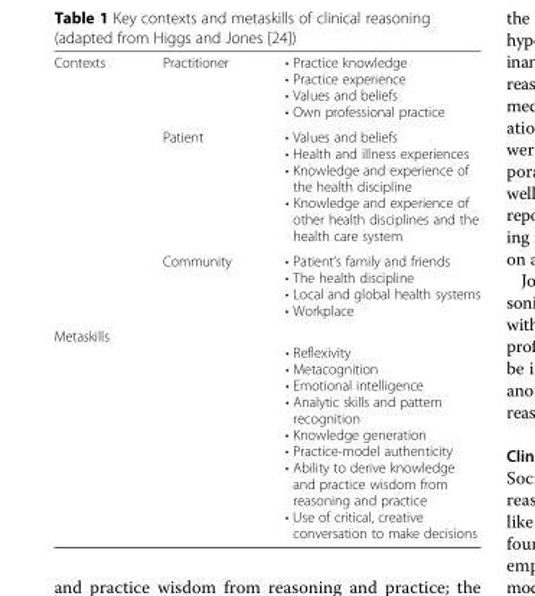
<table><tbody><tr><td rowspan="3">Contexts</td><td>Practitioner</td><td>• Practice knowledge • Practice experience • Values and beliefs • Own professional practice</td></tr><tr><td>Patient</td><td>• Values and beliefs • Health and illness experiences • Knowledge and experience of the health discipline • Knowledge and experience of other health disciplines and the health care system</td></tr><tr><td>Community</td><td>• Patient’s family and friends • The health discipline • Local and global health systems • Workplace</td></tr><tr><td>Metaskills</td><td></td><td>• Reflexivity • Metacognition • Emotional intelligence • Analytic skills and pattern recognition • Knowledge generation • Practice-model authenticity • Ability to derive knowledge and practice wisdom from reasoning and practice • Use of critical, creative conversation to make decisions</td></tr></tbody></table>